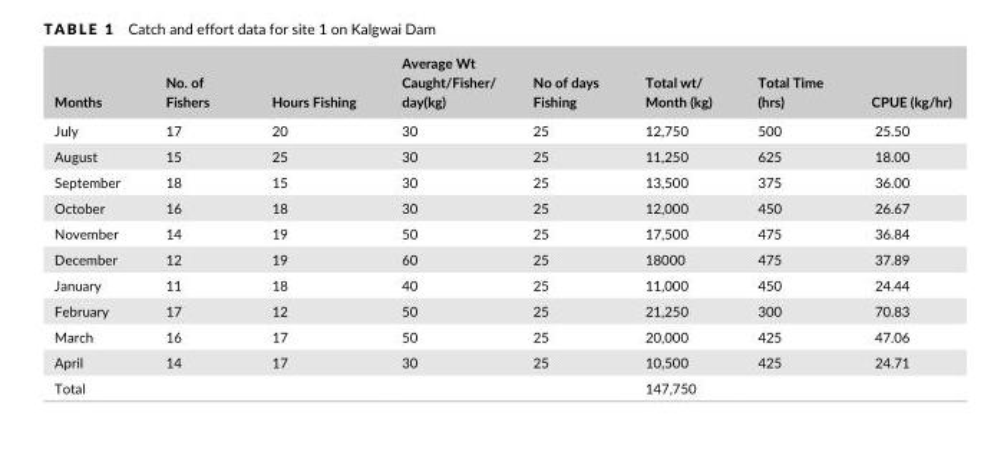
<table><thead><tr><td>Months</td><td>No. of Fishers</td><td>Hours Fishing</td><td>Average Wt Caught/Fisher/ day(kg)</td><td>No of days Fishing</td><td>Total wt/ Month (kg)</td><td>Total Time (hrs)</td><td>CPUE (kg/hr)</td></tr></thead><tbody><tr><td>July</td><td>17</td><td>20</td><td>30</td><td>25</td><td>12,750</td><td>500</td><td>25.50</td></tr><tr><td>August</td><td>15</td><td>25</td><td>30</td><td>25</td><td>11,250</td><td>625</td><td>18.00</td></tr><tr><td>September</td><td>18</td><td>15</td><td>30</td><td>25</td><td>13,500</td><td>375</td><td>36.00</td></tr><tr><td>October</td><td>16</td><td>18</td><td>30</td><td>25</td><td>12,000</td><td>450</td><td>26.67</td></tr><tr><td>November</td><td>14</td><td>19</td><td>50</td><td>25</td><td>17,500</td><td>475</td><td>36.84</td></tr><tr><td>December</td><td>12</td><td>19</td><td>60</td><td>25</td><td>18000</td><td>475</td><td>37.89</td></tr><tr><td>January</td><td>11</td><td>18</td><td>40</td><td>25</td><td>11,000</td><td>450</td><td>24.44</td></tr><tr><td>February</td><td>17</td><td>12</td><td>50</td><td>25</td><td>21,250</td><td>300</td><td>70.83</td></tr><tr><td>March</td><td>16</td><td>17</td><td>50</td><td>25</td><td>20,000</td><td>425</td><td>47.06</td></tr><tr><td>April</td><td>14</td><td>17</td><td>30</td><td>25</td><td>10,500</td><td>425</td><td>24.71</td></tr><tr><td>Total</td><td></td><td></td><td></td><td></td><td>147,750</td><td></td><td></td></tr></tbody></table>